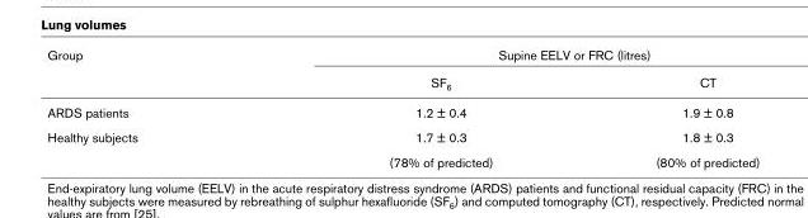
<table><thead><tr><td rowspan="2">Group</td><td colspan="2">Supine EELV or FRC (litres)</td></tr><tr><td>SF6</td><td>CT</td></tr></thead><tbody><tr><td>ARDS patients</td><td>1.2 ± 0.4</td><td>1.9 ± 0.8</td></tr><tr><td rowspan="2">Healthy subjects</td><td>1.7 ± 0.3</td><td>1.8 ± 0.3</td></tr><tr><td>(78% of predicted)</td><td>(80% of predicted)</td></tr></tbody></table>